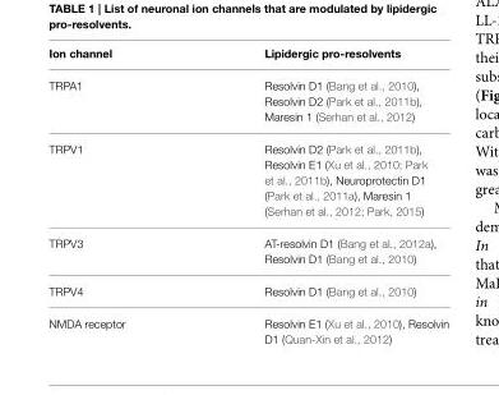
<table><thead><tr><td>Ion channel</td><td>Lipidergic pro-resolvents</td></tr></thead><tbody><tr><td>TRPA1</td><td>Resolvin D1 (Bang et al., 2010), Resolvin D2 (Park et al., 2011b), Maresin 1 (Serhan et al., 2012)</td></tr><tr><td>TRPV1</td><td>Resolvin D2 (Park et al., 2011b), Resolvin E1 (Xu et al., 2010; Park et al., 2011b), Neuroprotectin D1 (Park et al., 2011a), Maresin 1 (Serhan et al., 2012; Park, 2015)</td></tr><tr><td>TRPV3</td><td>AT-resolvin D1 (Bang et al., 2012a), Resolvin D1 (Bang et al., 2010)</td></tr><tr><td>TRPV4</td><td>Resolvin D1 (Bang et al., 2010)</td></tr><tr><td>NMDA receptor</td><td>Resolvin E1 (Xu et al., 2010), Resolvin D1 (Quan-Xin et al., 2012)</td></tr></tbody></table>